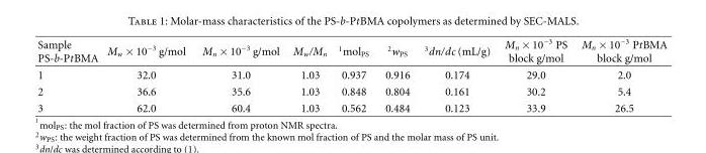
<table><thead><tr><td>Sample PS-b-PtBMA</td><td>M<sub>w</sub> × 10<sup>−3</sup> g/mol</td><td>M<sub>n</sub> × 10<sup>−3</sup> g/mol</td><td>M<sub>w</sub>/M<sub>n</sub></td><td><sup>1</sup>mol<sub>PS</sub></td><td><sup>2</sup>w<sub>PS</sub></td><td><sup>3</sup>dn/dc (mL/g)</td><td>M<sub>n</sub> × 10<sup>−3</sup> PS block g/mol</td><td>M<sub>n</sub> × 10<sup>−3</sup> PtBMA block g/mol</td></tr></thead><tbody><tr><td>1</td><td>32.0</td><td>31.0</td><td>1.03</td><td>0.937</td><td>0.916</td><td>0.174</td><td>29.0</td><td>2.0</td></tr><tr><td>2</td><td>36.6</td><td>35.6</td><td>1.03</td><td>0.848</td><td>0.804</td><td>0.161</td><td>30.2</td><td>5.4</td></tr><tr><td>3</td><td>62.0</td><td>60.4</td><td>1.03</td><td>0.562</td><td>0.484</td><td>0.123</td><td>33.9</td><td>26.5</td></tr></tbody></table>